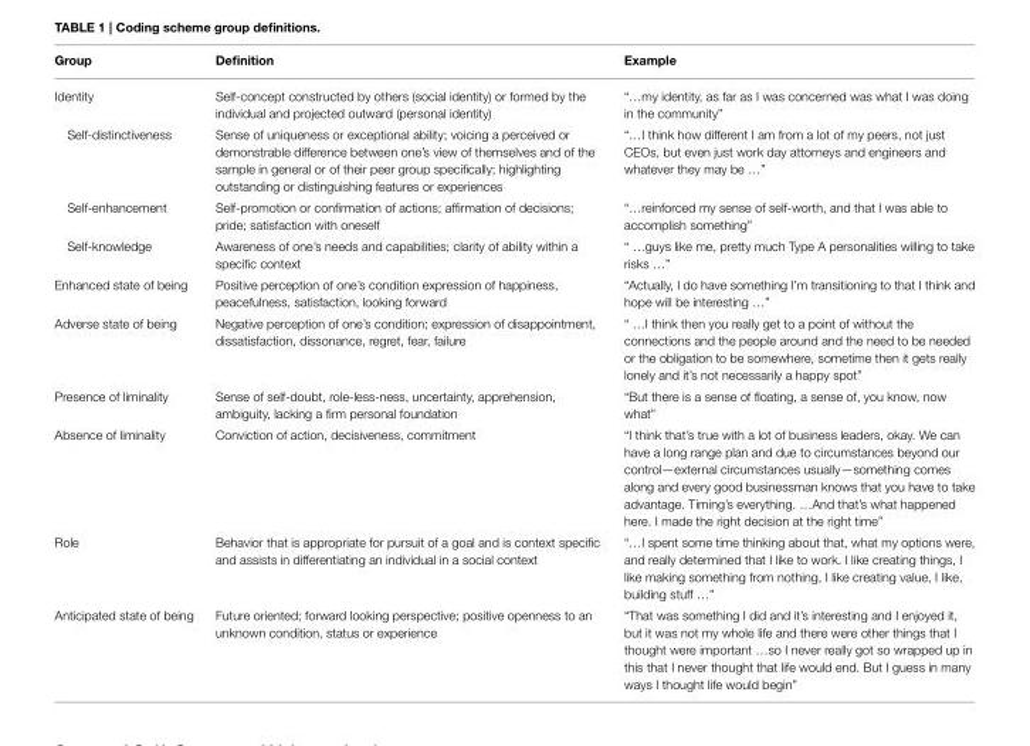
<table><thead><tr><td>Group</td><td>Definition</td><td>Example</td></tr></thead><tbody><tr><td>Identity</td><td>Self-concept constructed by others (social identity) or formed by the individual and projected outward (personal identity)</td><td>“…my identity, as far as I was concerned was what I was doing in the community”</td></tr><tr><td>Self-distinctiveness</td><td>Sense of uniqueness or exceptional ability; voicing a perceived or demonstrable difference between one’s view of themselves and of the sample in general or of their peer group specifically; highlighting outstanding or distinguishing features or experiences</td><td>“…I think how different I am from a lot of my peers, not just CEOs, but even just work day attorneys and engineers and whatever they may be …”</td></tr><tr><td>Self-enhancement</td><td>Self-promotion or confirmation of actions; affirmation of decisions; pride; satisfaction with oneself</td><td>“…reinforced my sense of self-worth, and that I was able to accomplish something”</td></tr><tr><td>Self-knowledge</td><td>Awareness of one’s needs and capabilities; clarity of ability within a specific context</td><td>“ …guys like me, pretty much Type A personalities willing to take risks …”</td></tr><tr><td>Enhanced state of being</td><td>Positive perception of one’s condition expression of happiness, peacefulness, satisfaction, looking forward</td><td>“Actually, I do have something I’m transitioning to that I think and hope will be interesting …”</td></tr><tr><td>Adverse state of being</td><td>Negative perception of one’s condition; expression of disappointment, dissatisfaction, dissonance, regret, fear, failure</td><td>“ …I think then you really get to a point of without the connections and the people around and the need to be needed or the obligation to be somewhere, sometime then it gets really lonely and it’s not necessarily a happy spot”</td></tr><tr><td>Presence of liminality</td><td>Sense of self-doubt, role-less-ness, uncertainty, apprehension, ambiguity, lacking a firm personal foundation</td><td>“But there is a sense of floating, a sense of, you know, now what”</td></tr><tr><td>Absence of liminality</td><td>Conviction of action, decisiveness, commitment</td><td>“I think that’s true with a lot of business leaders, okay. We can have a long range plan and due to circumstances beyond our control—external circumstances usually—something comes along and every good businessman knows that you have to take advantage. Timing’s everything. …And that’s what happened here. I made the right decision at the right time”</td></tr><tr><td>Role</td><td>Behavior that is appropriate for pursuit of a goal and is context specific and assists in differentiating an individual in a social context</td><td>“…I spent some time thinking about that, what my options were, and really determined that I like to work. I like creating things, I like making something from nothing, I like creating value, I like, building stuff …”</td></tr><tr><td>Anticipated state of being</td><td>Future oriented; forward looking perspective; positive openness to an unknown condition, status or experience</td><td>“That was something I did and it’s interesting and I enjoyed it, but it was not my whole life and there were other things that I thought were important …so I never really got so wrapped up in this that I never thought that life would end. But I guess in many ways I thought life would begin”</td></tr></tbody></table>